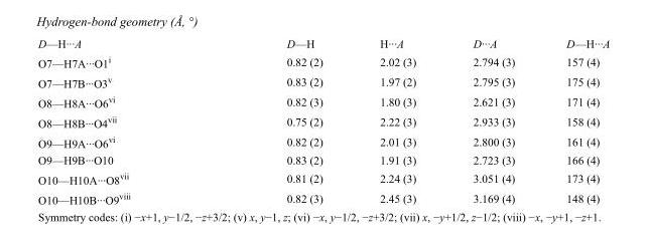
<table><tbody><tr><td>D—H···A</td><td>D—H</td><td>H···A</td><td>D···A</td><td>D—H···A</td></tr><tr><td>O7—H7A···O1<sup>i</sup></td><td>0.82 (2)</td><td>2.02 (3)</td><td>2.794 (3)</td><td>157 (4)</td></tr><tr><td>O7—H7B···O3<sup>v</sup></td><td>0.83 (2)</td><td>1.97 (2)</td><td>2.795 (3)</td><td>175 (4)</td></tr><tr><td>O8—H8A···O6<sup>vi</sup></td><td>0.82 (3)</td><td>1.80 (3)</td><td>2.621 (3)</td><td>171 (4)</td></tr><tr><td>O8—H8B···O4<sup>vii</sup></td><td>0.75 (2)</td><td>2.22 (3)</td><td>2.933 (3)</td><td>158 (4)</td></tr><tr><td>O9—H9A···O6<sup>vi</sup></td><td>0.82 (2)</td><td>2.01 (3)</td><td>2.800 (3)</td><td>161 (4)</td></tr><tr><td>O9—H9B···O10</td><td>0.83 (2)</td><td>1.91 (3)</td><td>2.723 (3)</td><td>166 (4)</td></tr><tr><td>O10—H10A···O8<sup>vii</sup></td><td>0.81 (2)</td><td>2.24 (3)</td><td>3.051 (4)</td><td>173 (4)</td></tr><tr><td>O10—H10B···O9<sup>viii</sup></td><td>0.82 (3)</td><td>2.45 (3)</td><td>3.169 (4)</td><td>148 (4)</td></tr></tbody></table>